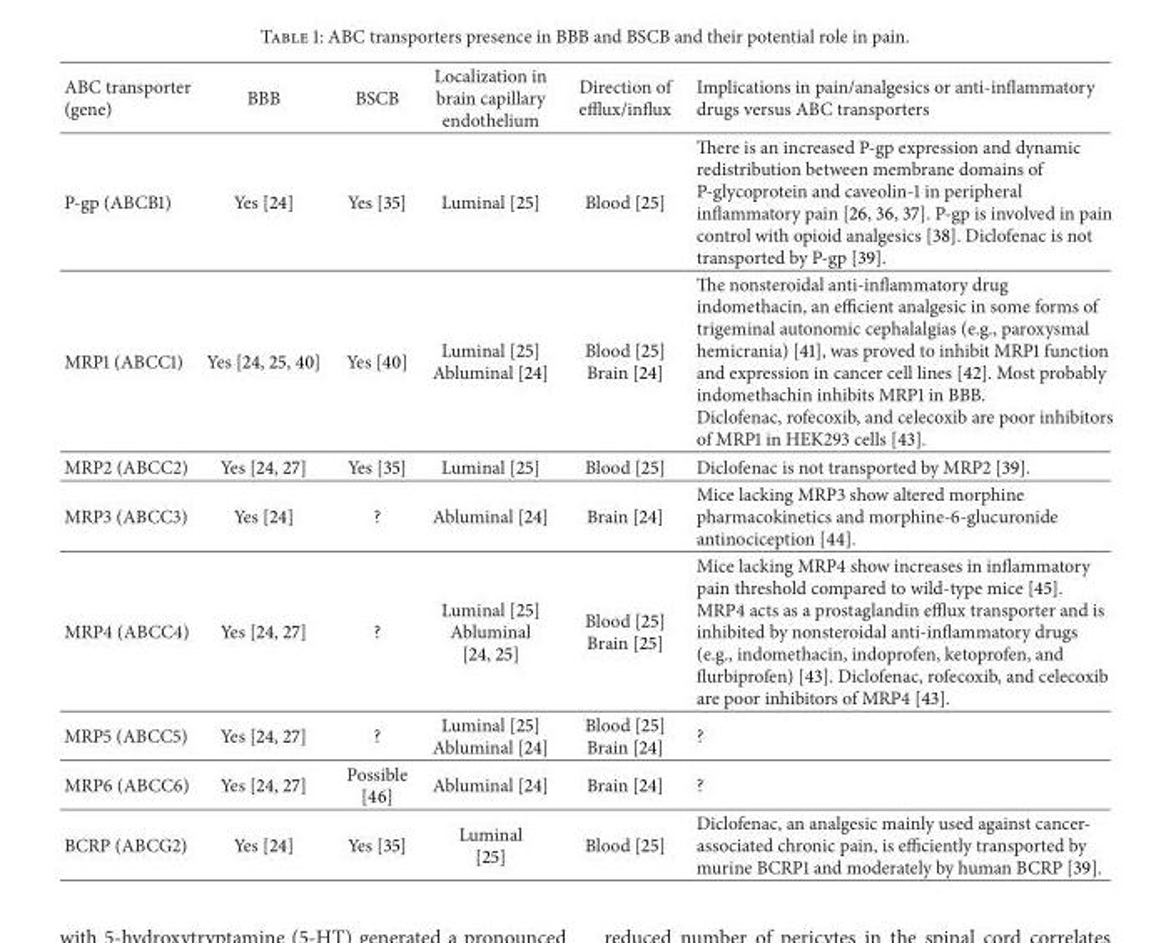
<table><thead><tr><td>ABC transporter (gene)</td><td>BBB</td><td>BSCB</td><td>Localization in brain capillary endothelium</td><td>Direction of efflux/influx</td><td>Implications in pain/analgesics or anti-inflammatory drugs versus ABC transporters</td></tr></thead><tbody><tr><td>P-gp (ABCB1)</td><td>Yes [24]</td><td>Yes [35]</td><td>Luminal [25]</td><td>Blood [25]</td><td>There is an increased P-gp expression and dynamic redistribution between membrane domains of P-glycoprotein and caveolin-1 in peripheral inflammatory pain [26, 36, 37]. P-gp is involved in pain control with opioid analgesics [38]. Diclofenac is not transported by P-gp [39].</td></tr><tr><td>MRP1 (ABCC1)</td><td>Yes [24, 25, 40]</td><td>Yes [40]</td><td>Luminal [25] Abluminal [24]</td><td>Blood [25] Brain [24]</td><td>The nonsteroidal anti-inflammatory drug indomethacin, an efficient analgesic in some forms of trigeminal autonomic cephalalgias (e.g., paroxysmal hemicrania) [41], was proved to inhibit MRP1 function and expression in cancer cell lines [42]. Most probably indomethachin inhibits MRP1 in BBB. Diclofenac, rofecoxib, and celecoxib are poor inhibitors of MRP1 in HEK293 cells [43].</td></tr><tr><td>MRP2 (ABCC2)</td><td>Yes [24, 27]</td><td>Yes [35]</td><td>Luminal [25]</td><td>Blood [25]</td><td>Diclofenac is not transported by MRP2 [39].</td></tr><tr><td>MRP3 (ABCC3)</td><td>Yes [24]</td><td>?</td><td>Abluminal [24]</td><td>Brain [24]</td><td>Mice lacking MRP3 show altered morphine pharmacokinetics and morphine-6-glucuronide antinociception [44].</td></tr><tr><td>MRP4 (ABCC4)</td><td>Yes [24, 27]</td><td>?</td><td>Luminal [25] Abluminal [24, 25]</td><td>Blood [25] Brain [25]</td><td>Mice lacking MRP4 show increases in inflammatory pain threshold compared to wild-type mice [45]. MRP4 acts as a prostaglandin efflux transporter and is inhibited by nonsteroidal anti-inflammatory drugs (e.g., indomethacin, indoprofen, ketoprofen, and flurbiprofen) [43]. Diclofenac, rofecoxib, and celecoxib are poor inhibitors of MRP4 [43].</td></tr><tr><td>MRP5 (ABCC5)</td><td>Yes [24, 27]</td><td>?</td><td>Luminal [25] Abluminal [24]</td><td>Blood [25] Brain [24]</td><td>?</td></tr><tr><td>MRP6 (ABCC6)</td><td>Yes [24, 27]</td><td>Possible [46]</td><td>Abluminal [24]</td><td>Brain [24]</td><td>?</td></tr><tr><td>BCRP (ABCG2)</td><td>Yes [24]</td><td>Yes [35]</td><td>Luminal [25]</td><td>Blood [25]</td><td>Diclofenac, an analgesic mainly used against cancer- associated chronic pain, is efficiently transported by murine BCRP1 and moderately by human BCRP [39].</td></tr></tbody></table>